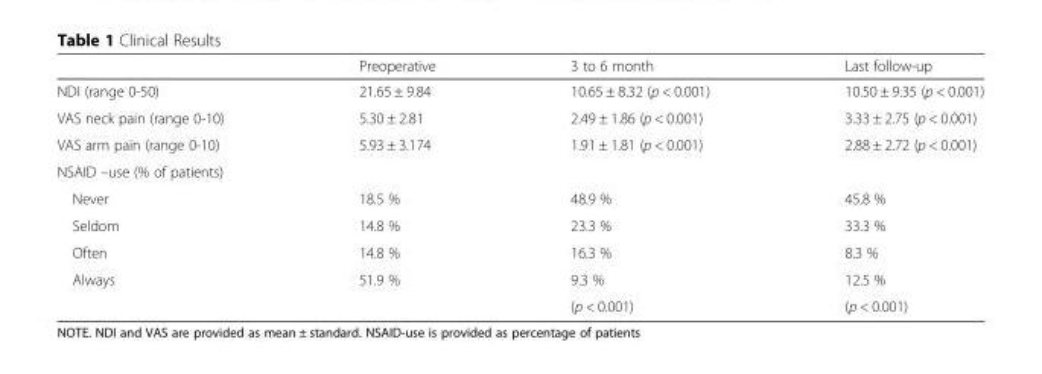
<table><thead><tr><td></td><td>Preoperative</td><td>3 to 6 month</td><td>Last follow-up</td></tr></thead><tbody><tr><td>NDI (range 0-50)</td><td>21.65 ± 9.84</td><td>10.65 ± 8.32 (p &lt; 0.001)</td><td>10.50 ± 9.35 (p &lt; 0.001)</td></tr><tr><td>VAS neck pain (range 0-10)</td><td>5.30 ± 2.81</td><td>2.49 ± 1.86 (p &lt; 0.001)</td><td>3.33 ± 2.75 (p &lt; 0.001)</td></tr><tr><td>VAS arm pain (range 0-10)</td><td>5.93 ± 3.174</td><td>1.91 ± 1.81 (p &lt; 0.001)</td><td>2.88 ± 2.72 (p &lt; 0.001)</td></tr><tr><td colspan="4">NSAID –use (% of patients)</td></tr><tr><td>Never</td><td>18.5 %</td><td>48.9 %</td><td>45.8 %</td></tr><tr><td>Seldom</td><td>14.8 %</td><td>23.3 %</td><td>33.3 %</td></tr><tr><td>Often</td><td>14.8 %</td><td>16.3 %</td><td>8.3 %</td></tr><tr><td rowspan="2">Always</td><td>51.9 %</td><td>9.3 %</td><td>12.5 %</td></tr><tr><td></td><td>(p &lt; 0.001)</td><td>(p &lt; 0.001)</td></tr></tbody></table>